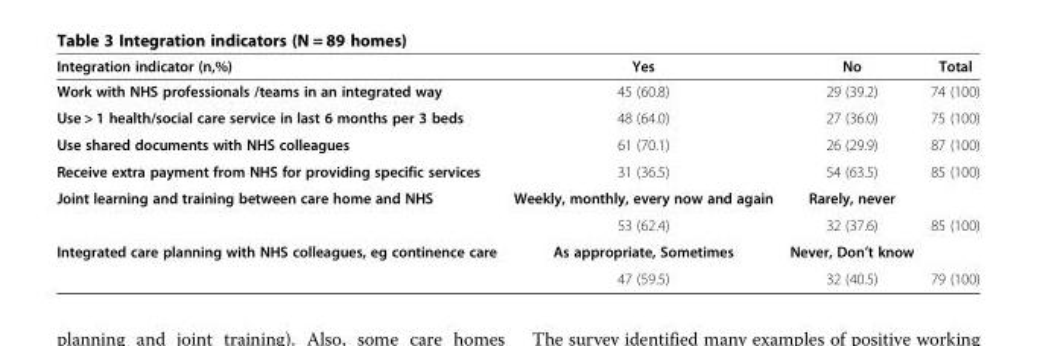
<table><thead><tr><td>Integration indicator (n,%)</td><td>Yes</td><td>No</td><td>Total</td></tr></thead><tbody><tr><td>Work with NHS professionals /teams in an integrated way</td><td>45 (60.8)</td><td>29 (39.2)</td><td>74 (100)</td></tr><tr><td>Use &gt; 1 health/social care service in last 6 months per 3 beds</td><td>48 (64.0)</td><td>27 (36.0)</td><td>75 (100)</td></tr><tr><td>Use shared documents with NHS colleagues</td><td>61 (70.1)</td><td>26 (29.9)</td><td>87 (100)</td></tr><tr><td>Receive extra payment from NHS for providing specific services</td><td>31 (36.5)</td><td>54 (63.5)</td><td>85 (100)</td></tr><tr><td rowspan="2">Joint learning and training between care home and NHS</td><td>Weekly, monthly, every now and again</td><td>Rarely, never</td><td></td></tr><tr><td>53 (62.4)</td><td>32 (37.6)</td><td>85 (100)</td></tr><tr><td rowspan="2">Integrated care planning with NHS colleagues, eg continence care</td><td>As appropriate, Sometimes</td><td>Never, Don’t know</td><td></td></tr><tr><td>47 (59.5)</td><td>32 (40.5)</td><td>79 (100)</td></tr></tbody></table>